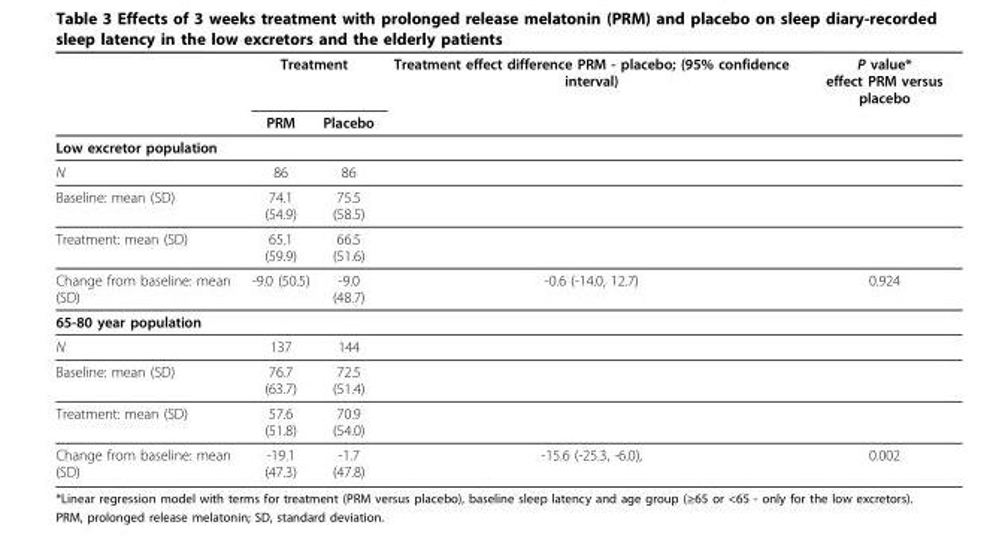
<table><thead><tr><td rowspan="2"></td><td colspan="2">Treatment</td><td rowspan="2">Treatment effect difference PRM - placebo; (95% confidence interval)</td><td rowspan="2">P value* effect PRM versus placebo</td></tr><tr><td>PRM</td><td>Placebo</td></tr></thead><tbody><tr><td colspan="5">Low excretor population</td></tr><tr><td>N</td><td>86</td><td>86</td><td></td><td></td></tr><tr><td>Baseline: mean (SD)</td><td>74.1 (54.9)</td><td>75.5 (58.5)</td><td></td><td></td></tr><tr><td>Treatment: mean (SD)</td><td>65.1 (59.9)</td><td>66.5 (51.6)</td><td></td><td></td></tr><tr><td>Change from baseline: mean (SD)</td><td>-9.0 (50.5)</td><td>-9.0 (48.7)</td><td>-0.6 (-14.0, 12.7)</td><td>0.924</td></tr><tr><td colspan="5">65-80 year population</td></tr><tr><td>N</td><td>137</td><td>144</td><td></td><td></td></tr><tr><td>Baseline: mean (SD)</td><td>76.7 (63.7)</td><td>72.5 (51.4)</td><td></td><td></td></tr><tr><td>Treatment: mean (SD)</td><td>57.6 (51.8)</td><td>70.9 (54.0)</td><td></td><td></td></tr><tr><td>Change from baseline: mean (SD)</td><td>-19.1 (47.3)</td><td>-1.7 (47.8)</td><td>-15.6 (-25.3, -6.0),</td><td>0.002</td></tr></tbody></table>